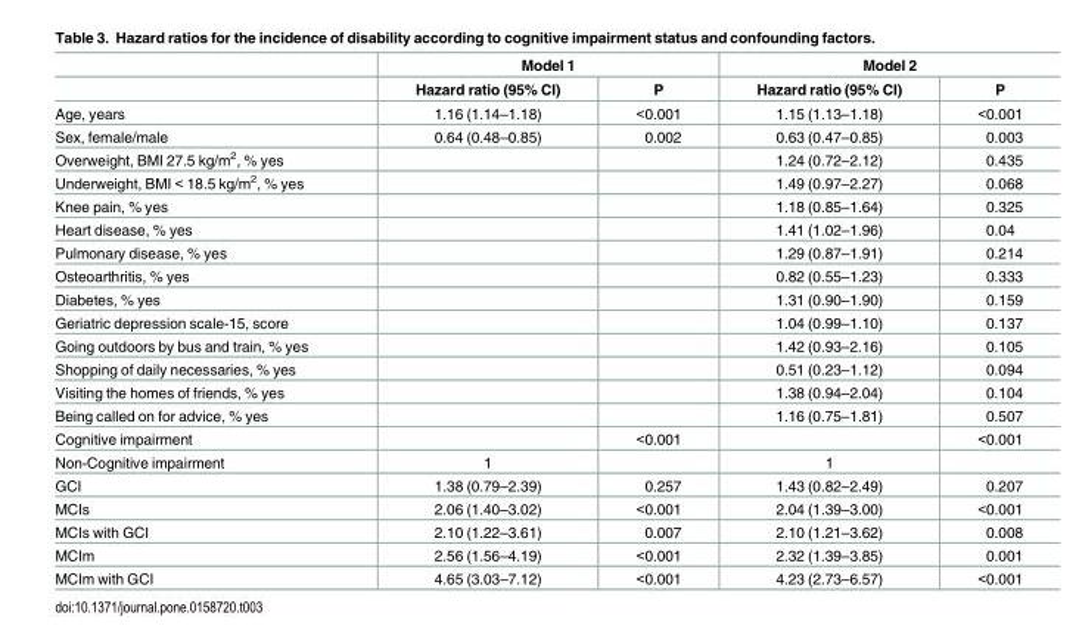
<table><thead><tr><td rowspan="2"></td><td colspan="2">Model 1</td><td colspan="2">Model 2</td></tr><tr><td>Hazard ratio (95% CI)</td><td>P</td><td>Hazard ratio (95% CI)</td><td>P</td></tr></thead><tbody><tr><td>Age, years</td><td>1.16 (1.14–1.18)</td><td>&lt;0.001</td><td>1.15 (1.13–1.18)</td><td>&lt;0.001</td></tr><tr><td>Sex, female/male</td><td>0.64 (0.48–0.85)</td><td>0.002</td><td>0.63 (0.47–0.85)</td><td>0.003</td></tr><tr><td>Overweight, BMI 27.5 kg/m<sup>2</sup>, % yes</td><td></td><td></td><td>1.24 (0.72–2.12)</td><td>0.435</td></tr><tr><td>Underweight, BMI &lt; 18.5 kg/m<sup>2</sup>, % yes</td><td></td><td></td><td>1.49 (0.97–2.27)</td><td>0.068</td></tr><tr><td>Knee pain, % yes</td><td></td><td></td><td>1.18 (0.85–1.64)</td><td>0.325</td></tr><tr><td>Heart disease, % yes</td><td></td><td></td><td>1.41 (1.02–1.96)</td><td>0.04</td></tr><tr><td>Pulmonary disease, % yes</td><td></td><td></td><td>1.29 (0.87–1.91)</td><td>0.214</td></tr><tr><td>Osteoarthritis, % yes</td><td></td><td></td><td>0.82 (0.55–1.23)</td><td>0.333</td></tr><tr><td>Diabetes, % yes</td><td></td><td></td><td>1.31 (0.90–1.90)</td><td>0.159</td></tr><tr><td>Geriatric depression scale-15, score</td><td></td><td></td><td>1.04 (0.99–1.10)</td><td>0.137</td></tr><tr><td>Going outdoors by bus and train, % yes</td><td></td><td></td><td>1.42 (0.93–2.16)</td><td>0.105</td></tr><tr><td>Shopping of daily necessaries, % yes</td><td></td><td></td><td>0.51 (0.23–1.12)</td><td>0.094</td></tr><tr><td>Visiting the homes of friends, % yes</td><td></td><td></td><td>1.38 (0.94–2.04)</td><td>0.104</td></tr><tr><td>Being called on for advice, % yes</td><td></td><td></td><td>1.16 (0.75–1.81)</td><td>0.507</td></tr><tr><td>Cognitive impairment</td><td></td><td>&lt;0.001</td><td></td><td>&lt;0.001</td></tr><tr><td>Non-Cognitive impairment</td><td>1</td><td></td><td>1</td><td></td></tr><tr><td>GCI</td><td>1.38 (0.79–2.39)</td><td>0.257</td><td>1.43 (0.82–2.49)</td><td>0.207</td></tr><tr><td>MCIs</td><td>2.06 (1.40–3.02)</td><td>&lt;0.001</td><td>2.04 (1.39–3.00)</td><td>&lt;0.001</td></tr><tr><td>MCIs with GCI</td><td>2.10 (1.22–3.61)</td><td>0.007</td><td>2.10 (1.21–3.62)</td><td>0.008</td></tr><tr><td>MCIm</td><td>2.56 (1.56–4.19)</td><td>&lt;0.001</td><td>2.32 (1.39–3.85)</td><td>0.001</td></tr><tr><td>MCIm with GCI</td><td>4.65 (3.03–7.12)</td><td>&lt;0.001</td><td>4.23 (2.73–6.57)</td><td>&lt;0.001</td></tr></tbody></table>